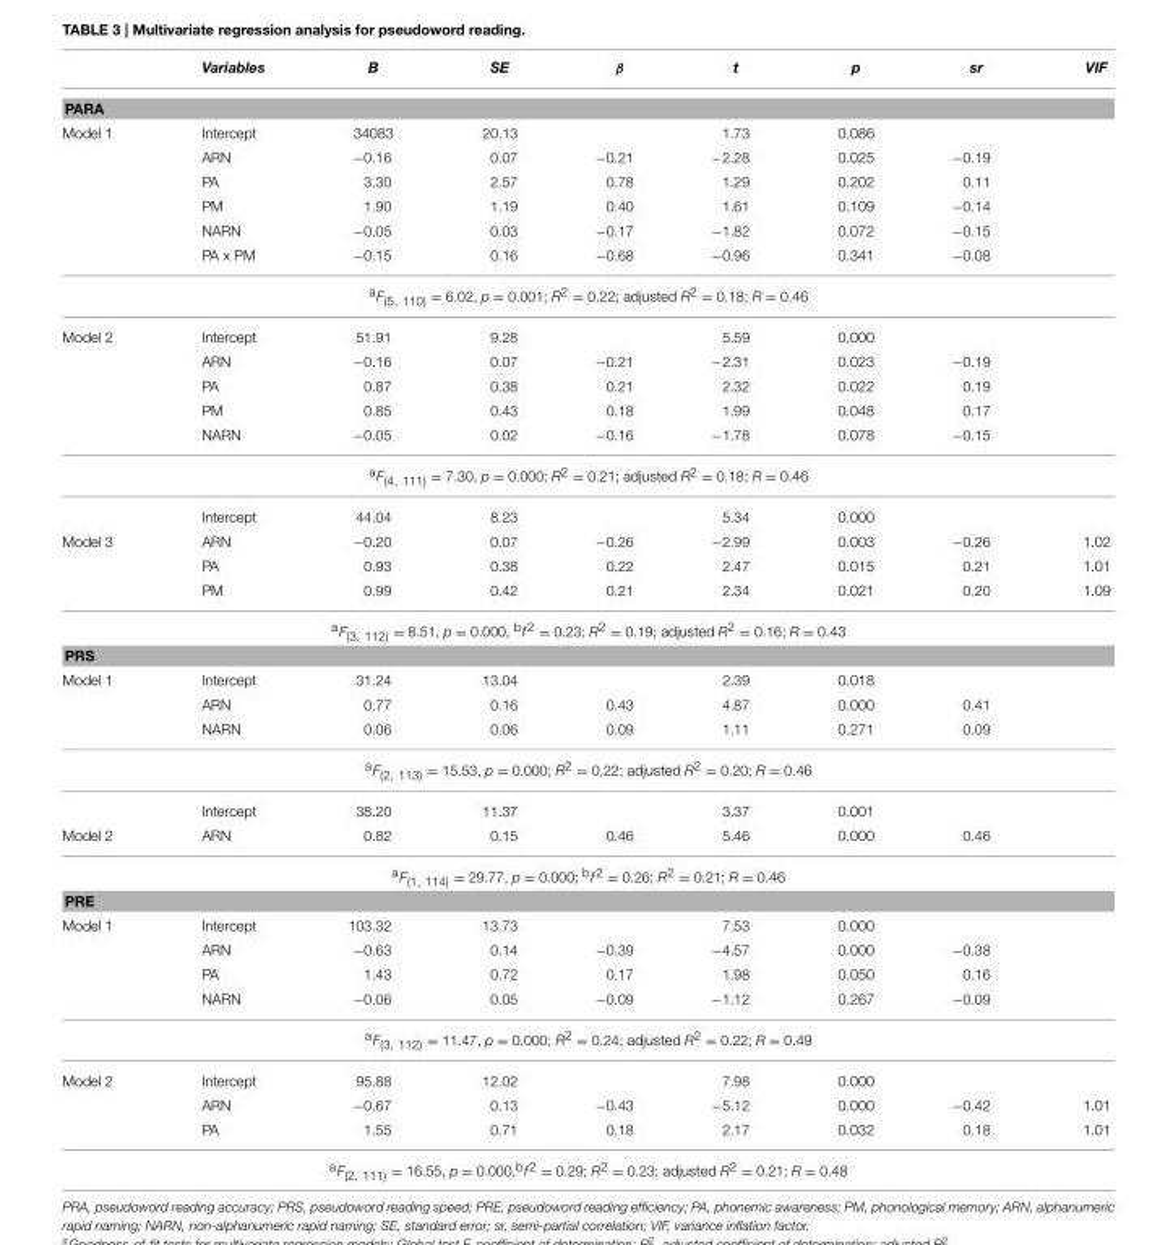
<table><thead><tr><td></td><td>Variables</td><td>B</td><td>SE</td><td>β</td><td>t</td><td>p</td><td>sr</td><td>VIF</td></tr></thead><tbody><tr><td colspan="9">PARA</td></tr><tr><td rowspan="6">Model 1</td><td>Intercept</td><td>34083</td><td>20.13</td><td></td><td>1.73</td><td>0.086</td><td></td><td></td></tr><tr><td>ARN</td><td>−0.16</td><td>0.07</td><td>−0.21</td><td>−2.28</td><td>0.025</td><td>−0.19</td><td></td></tr><tr><td>PA</td><td>3.30</td><td>2.57</td><td>0.78</td><td>1.29</td><td>0.202</td><td>0.11</td><td></td></tr><tr><td>PM</td><td>1.90</td><td>1.19</td><td>0.40</td><td>1.61</td><td>0.109</td><td>−0.14</td><td></td></tr><tr><td>NARN</td><td>−0.05</td><td>0.03</td><td>−0.17</td><td>−1.82</td><td>0.072</td><td>−0.15</td><td></td></tr><tr><td>PA x PM</td><td>−0.15</td><td>0.16</td><td>−0.68</td><td>−0.96</td><td>0.341</td><td>−0.08</td><td></td></tr><tr><td colspan="9"><sup>a</sup>F<sub>(5, 110)</sub> = 6.02, p = 0.001; R<sup>2</sup> = 0.22; adjusted R<sup>2</sup> = 0.18; R = 0.46</td></tr><tr><td rowspan="5">Model 2</td><td>Intercept</td><td>51.91</td><td>9.28</td><td></td><td>5.59</td><td>0.000</td><td></td><td></td></tr><tr><td>ARN</td><td>−0.16</td><td>0.07</td><td>−0.21</td><td>−2.31</td><td>0.023</td><td>−0.19</td><td></td></tr><tr><td>PA</td><td>0.87</td><td>0.38</td><td>0.21</td><td>2.32</td><td>0.022</td><td>0.19</td><td></td></tr><tr><td>PM</td><td>0.85</td><td>0.43</td><td>0.18</td><td>1.99</td><td>0.048</td><td>0.17</td><td></td></tr><tr><td>NARN</td><td>−0.05</td><td>0.02</td><td>−0.16</td><td>−1.78</td><td>0.078</td><td>−0.15</td><td></td></tr><tr><td colspan="9"><sup>a</sup>F<sub>(4, 111)</sub> = 7.30, p = 0.000; R<sup>2</sup> = 0.21; adjusted R<sup>2</sup> = 0.18; R = 0.46</td></tr><tr><td></td><td>Intercept</td><td>44.04</td><td>8.23</td><td></td><td>5.34</td><td>0.000</td><td></td><td></td></tr><tr><td rowspan="3">Model 3</td><td>ARN</td><td>−0.20</td><td>0.07</td><td>−0.26</td><td>−2.99</td><td>0.003</td><td>−0.26</td><td>1.02</td></tr><tr><td>PA</td><td>0.93</td><td>0.38</td><td>0.22</td><td>2.47</td><td>0.015</td><td>0.21</td><td>1.01</td></tr><tr><td>PM</td><td>0.99</td><td>0.42</td><td>0.21</td><td>2.34</td><td>0.021</td><td>0.20</td><td>1.09</td></tr><tr><td colspan="9"><sup>a</sup>F<sub>(3, 112)</sub> = 8.51, p = 0.000, <sup>b</sup>f<sup>2</sup> = 0.23; R<sup>2</sup> = 0.19; adjusted R<sup>2</sup> = 0.16; R = 0.43</td></tr><tr><td colspan="9">PRS</td></tr><tr><td rowspan="3">Model 1</td><td>Intercept</td><td>31.24</td><td>13.04</td><td></td><td>2.39</td><td>0.018</td><td></td><td></td></tr><tr><td>ARN</td><td>0.77</td><td>0.16</td><td>0.43</td><td>4.87</td><td>0.000</td><td>0.41</td><td></td></tr><tr><td>NARN</td><td>0.06</td><td>0.06</td><td>0.09</td><td>1.11</td><td>0.271</td><td>0.09</td><td></td></tr><tr><td colspan="9"><sup>a</sup>F<sub>(2, 113)</sub> = 15.53, p = 0.000; R<sup>2</sup> = 0.22; adjusted R<sup>2</sup> = 0.20; R = 0.46</td></tr><tr><td></td><td>Intercept</td><td>38.20</td><td>11.37</td><td></td><td>3.37</td><td>0.001</td><td></td><td></td></tr><tr><td>Model 2</td><td>ARN</td><td>0.82</td><td>0.15</td><td>0.46</td><td>5.46</td><td>0.000</td><td>0.46</td><td></td></tr><tr><td colspan="9"><sup>a</sup>F<sub>(1, 114)</sub> = 29.77, p = 0.000; <sup>b</sup>f<sup>2</sup> = 0.26; R<sup>2</sup> = 0.21; R = 0.46</td></tr><tr><td colspan="9">PRE</td></tr><tr><td rowspan="4">Model 1</td><td>Intercept</td><td>103.32</td><td>13.73</td><td></td><td>7.53</td><td>0.000</td><td></td><td></td></tr><tr><td>ARN</td><td>−0.63</td><td>0.14</td><td>−0.39</td><td>−4.57</td><td>0.000</td><td>−0.38</td><td></td></tr><tr><td>PA</td><td>1.43</td><td>0.72</td><td>0.17</td><td>1.98</td><td>0.050</td><td>0.16</td><td></td></tr><tr><td>NARN</td><td>−0.06</td><td>0.05</td><td>−0.09</td><td>−1.12</td><td>0.267</td><td>−0.09</td><td></td></tr><tr><td colspan="9"><sup>a</sup>F<sub>(3, 112)</sub> = 11.47, p = 0.000; R<sup>2</sup> = 0.24; adjusted R<sup>2</sup> = 0.22; R = 0.49</td></tr><tr><td rowspan="3">Model 2</td><td>Intercept</td><td>95.88</td><td>12.02</td><td></td><td>7.98</td><td>0.000</td><td></td><td></td></tr><tr><td>ARN</td><td>−0.67</td><td>0.13</td><td>−0.43</td><td>−5.12</td><td>0.000</td><td>−0.42</td><td>1.01</td></tr><tr><td>PA</td><td>1.55</td><td>0.71</td><td>0.18</td><td>2.17</td><td>0.032</td><td>0.18</td><td>1.01</td></tr><tr><td colspan="9"><sup>a</sup>F<sub>(2, 111)</sub> = 16.55, p = 0.000,<sup>b</sup>f<sup>2</sup> = 0.29; R<sup>2</sup> = 0.23; adjusted R<sup>2</sup> = 0.21; R = 0.48</td></tr></tbody></table>